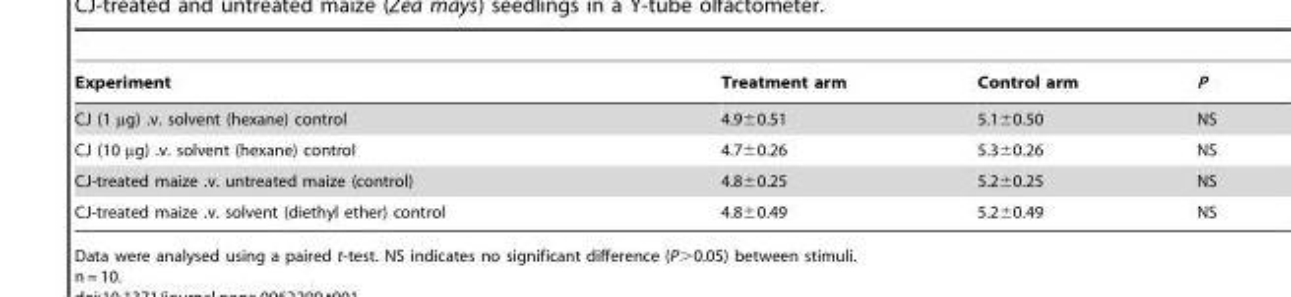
<table><thead><tr><td>Experiment</td><td>Treatment arm</td><td>Control arm</td><td>P</td></tr></thead><tbody><tr><td>CJ (1 µg) .v. solvent (hexane) control</td><td>4.9±0.51</td><td>5.1±0.50</td><td>NS</td></tr><tr><td>CJ (10 µg) .v. solvent (hexane) control</td><td>4.7±0.26</td><td>5.3±0.26</td><td>NS</td></tr><tr><td>CJ-treated maize .v. untreated maize (control)</td><td>4.8±0.25</td><td>5.2±0.25</td><td>NS</td></tr><tr><td>CJ-treated maize .v. solvent (diethyl ether) control</td><td>4.8±0.49</td><td>5.2±0.49</td><td>NS</td></tr></tbody></table>